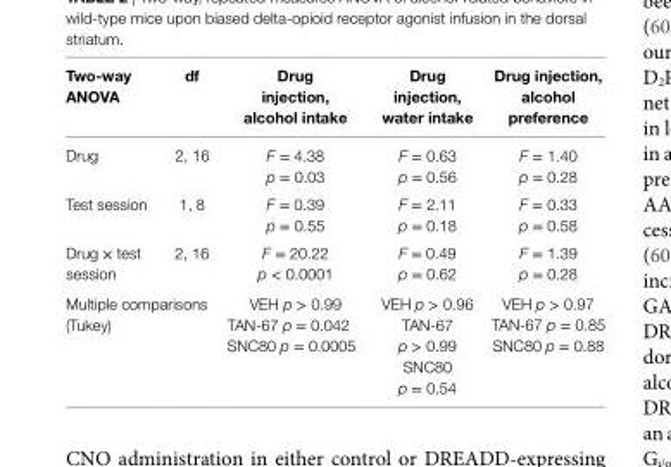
<table><thead><tr><td>Two-way anOVa</td><td>df</td><td>Drug injection, alcohol intake</td><td>Drug injection, water intake</td><td>Drug injection, alcohol preference</td></tr></thead><tbody><tr><td>Drug</td><td>2, 16</td><td>F = 4.38 p = 0.03</td><td>F = 0.63 p = 0.56</td><td>F = 1.40 p = 0.28</td></tr><tr><td>Test session</td><td>1, 8</td><td>F = 0.39 p = 0.55</td><td>F = 2.11 p = 0.18</td><td>F = 0.33 p = 0.58</td></tr><tr><td>Drug × test session</td><td>2, 16</td><td>F = 20.22 p &lt; 0.0001</td><td>F = 0.49 p = 0.62</td><td>F = 1.39 p = 0.28</td></tr><tr><td colspan="2">Multiple comparisons (Tukey)</td><td>VEH p &gt; 0.99 TAN-67 p = 0.042 SNC80 p = 0.0005</td><td>VEH p &gt; 0.96 TAN-67 p &gt; 0.99 SNC80 p = 0.54</td><td>VEH p &gt; 0.97 TAN-67 p = 0.85 SNC80 p = 0.88</td></tr></tbody></table>